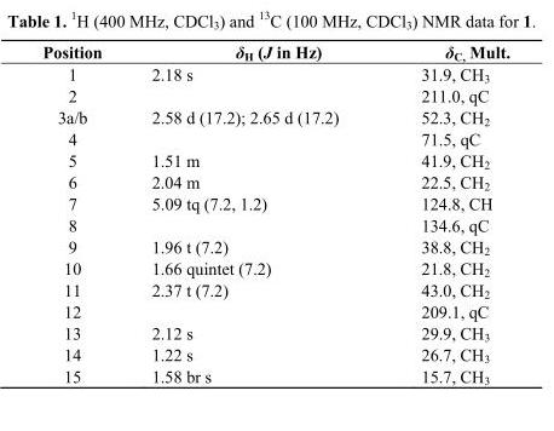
<table><thead><tr><td>Position</td><td>δ<sub>H</sub> (J in Hz)</td><td>δ<sub>C,</sub> Mult.</td></tr></thead><tbody><tr><td>1</td><td>2.18 s</td><td>31.9, CH<sub>3</sub></td></tr><tr><td>2</td><td></td><td>211.0, qC</td></tr><tr><td>3a/b</td><td>2.58 d (17.2); 2.65 d (17.2)</td><td>52.3, CH<sub>2</sub></td></tr><tr><td>4</td><td></td><td>71.5, qC</td></tr><tr><td>5</td><td>1.51 m</td><td>41.9, CH<sub>2</sub></td></tr><tr><td>6</td><td>2.04 m</td><td>22.5, CH<sub>2</sub></td></tr><tr><td>7</td><td>5.09 tq (7.2, 1.2)</td><td>124.8, CH</td></tr><tr><td>8</td><td></td><td>134.6, qC</td></tr><tr><td>9</td><td>1.96 t (7.2)</td><td>38.8, CH<sub>2</sub></td></tr><tr><td>10</td><td>1.66 quintet (7.2)</td><td>21.8, CH<sub>2</sub></td></tr><tr><td>11</td><td>2.37 t (7.2)</td><td>43.0, CH<sub>2</sub></td></tr><tr><td>12</td><td></td><td>209.1, qC</td></tr><tr><td>13</td><td>2.12 s</td><td>29.9, CH<sub>3</sub></td></tr><tr><td>14</td><td>1.22 s</td><td>26.7, CH<sub>3</sub></td></tr><tr><td>15</td><td>1.58 br s</td><td>15.7, CH<sub>3</sub></td></tr></tbody></table>